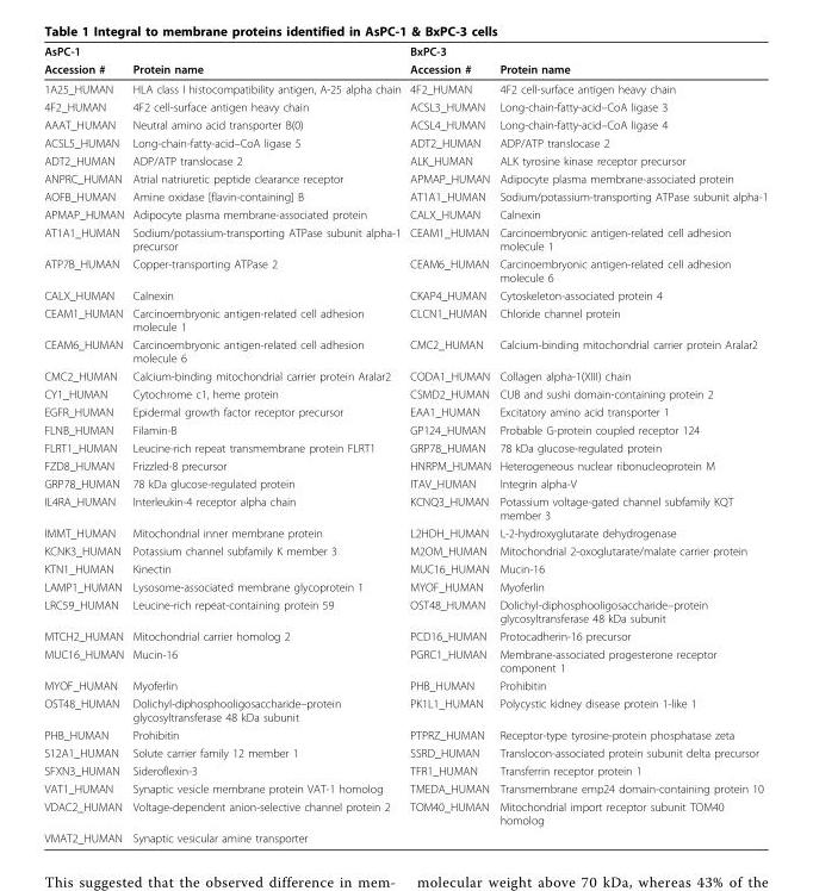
<table><thead><tr><td rowspan="2">AsPC-1 Accession #</td><td rowspan="2">Protein name</td><td rowspan="2">BxPC-3 Accession #</td><td rowspan="2">Protein name</td></tr><tr></tr></thead><tbody><tr><td>1A25_HUMAN</td><td>HLA class I histocompatibility antigen, A-25 alpha chain</td><td>4F2_HUMAN</td><td>4F2 cell-surface antigen heavy chain</td></tr><tr><td>4F2_HUMAN</td><td>4F2 cell-surface antigen heavy chain</td><td>ACSL3_HUMAN</td><td>Long-chain-fatty-acid–CoA ligase 3</td></tr><tr><td>AAAT_HUMAN</td><td>Neutral amino acid transporter B(0)</td><td>ACSL4_HUMAN</td><td>Long-chain-fatty-acid–CoA ligase 4</td></tr><tr><td>ACSL5_HUMAN</td><td>Long-chain-fatty-acid–CoA ligase 5</td><td>ADT2_HUMAN</td><td>ADP/ATP translocase 2</td></tr><tr><td>ADT2_HUMAN</td><td>ADP/ATP translocase 2</td><td>ALK_HUMAN</td><td>ALK tyrosine kinase receptor precursor</td></tr><tr><td>ANPRC_HUMAN</td><td>Atrial natriuretic peptide clearance receptor</td><td>APMAP_HUMAN</td><td>Adipocyte plasma membrane-associated protein</td></tr><tr><td>AOFB_HUMAN</td><td>Amine oxidase [flavin-containing] B</td><td>AT1A1_HUMAN</td><td>Sodium/potassium-transporting ATPase subunit alpha-1</td></tr><tr><td>APMAP_HUMAN</td><td>Adipocyte plasma membrane-associated protein</td><td>CALX_HUMAN</td><td>Calnexin</td></tr><tr><td>AT1A1_HUMAN</td><td>Sodium/potassium-transporting ATPase subunit alpha-1 precursor</td><td>CEAM1_HUMAN</td><td>Carcinoembryonic antigen-related cell adhesion molecule 1</td></tr><tr><td>ATP7B_HUMAN</td><td>Copper-transporting ATPase 2</td><td>CEAM6_HUMAN</td><td>Carcinoembryonic antigen-related cell adhesion molecule 6</td></tr><tr><td>CALX_HUMAN</td><td>Calnexin</td><td>CKAP4_HUMAN</td><td>Cytoskeleton-associated protein 4</td></tr><tr><td>CEAM1_HUMAN</td><td>Carcinoembryonic antigen-related cell adhesion molecule 1</td><td>CLCN1_HUMAN</td><td>Chloride channel protein</td></tr><tr><td>CEAM6_HUMAN</td><td>Carcinoembryonic antigen-related cell adhesion molecule 6</td><td>CMC2_HUMAN</td><td>Calcium-binding mitochondrial carrier protein Aralar2</td></tr><tr><td>CMC2_HUMAN</td><td>Calcium-binding mitochondrial carrier protein Aralar2</td><td>CODA1_HUMAN</td><td>Collagen alpha-1(XIII) chain</td></tr><tr><td>CY1_HUMAN</td><td>Cytochrome c1, heme protein</td><td>CSMD2_HUMAN</td><td>CUB and sushi domain-containing protein 2</td></tr><tr><td>EGFR_HUMAN</td><td>Epidermal growth factor receptor precursor</td><td>EAA1_HUMAN</td><td>Excitatory amino acid transporter 1</td></tr><tr><td>FLNB_HUMAN</td><td>Filamin-B</td><td>GP124_HUMAN</td><td>Probable G-protein coupled receptor 124</td></tr><tr><td>FLRT1_HUMAN</td><td>Leucine-rich repeat transmembrane protein FLRT1</td><td>GRP78_HUMAN</td><td>78 kDa glucose-regulated protein</td></tr><tr><td>FZD8_HUMAN</td><td>Frizzled-8 precursor</td><td>HNRPM_HUMAN</td><td>Heterogeneous nuclear ribonucleoprotein M</td></tr><tr><td>GRP78_HUMAN</td><td>78 kDa glucose-regulated protein</td><td>ITAV_HUMAN</td><td>Integrin alpha-V</td></tr><tr><td>IL4RA_HUMAN</td><td>Interleukin-4 receptor alpha chain</td><td>KCNQ3_HUMAN</td><td>Potassium voltage-gated channel subfamily KQT member 3</td></tr><tr><td>IMMT_HUMAN</td><td>Mitochondrial inner membrane protein</td><td>L2HDH_HUMAN</td><td>L-2-hydroxyglutarate dehydrogenase</td></tr><tr><td>KCNK3_HUMAN</td><td>Potassium channel subfamily K member 3</td><td>M2OM_HUMAN</td><td>Mitochondrial 2-oxoglutarate/malate carrier protein</td></tr><tr><td>KTN1_HUMAN</td><td>Kinectin</td><td>MUC16_HUMAN</td><td>Mucin-16</td></tr><tr><td>LAMP1_HUMAN</td><td>Lysosome-associated membrane glycoprotein 1</td><td>MYOF_HUMAN</td><td>Myoferlin</td></tr><tr><td>LRC59_HUMAN</td><td>Leucine-rich repeat-containing protein 59</td><td>OST48_HUMAN</td><td>Dolichyl-diphosphooligosaccharide–protein glycosyltransferase 48 kDa subunit</td></tr><tr><td>MTCH2_HUMAN</td><td>Mitochondrial carrier homolog 2</td><td>PCD16_HUMAN</td><td>Protocadherin-16 precursor</td></tr><tr><td>MUC16_HUMAN</td><td>Mucin-16</td><td>PGRC1_HUMAN</td><td>Membrane-associated progesterone receptor component 1</td></tr><tr><td>MYOF_HUMAN</td><td>Myoferlin</td><td>PHB_HUMAN</td><td>Prohibitin</td></tr><tr><td>OST48_HUMAN</td><td>Dolichyl-diphosphooligosaccharide–protein glycosyltransferase 48 kDa subunit</td><td>PK1L1_HUMAN</td><td>Polycystic kidney disease protein 1-like 1</td></tr><tr><td>PHB_HUMAN</td><td>Prohibitin</td><td>PTPRZ_HUMAN</td><td>Receptor-type tyrosine-protein phosphatase zeta</td></tr><tr><td>S12A1_HUMAN</td><td>Solute carrier family 12 member 1</td><td>SSRD_HUMAN</td><td>Translocon-associated protein subunit delta precursor</td></tr><tr><td>SFXN3_HUMAN</td><td>Sideroflexin-3</td><td>TFR1_HUMAN</td><td>Transferrin receptor protein 1</td></tr><tr><td>VAT1_HUMAN</td><td>Synaptic vesicle membrane protein VAT-1 homolog</td><td>TMEDA_HUMAN</td><td>Transmembrane emp24 domain-containing protein 10</td></tr><tr><td>VDAC2_HUMAN</td><td>Voltage-dependent anion-selective channel protein 2</td><td>TOM40_HUMAN</td><td>Mitochondrial import receptor subunit TOM40 homolog</td></tr><tr><td>VMAT2_HUMAN</td><td>Synaptic vesicular amine transporter</td><td></td><td></td></tr></tbody></table>